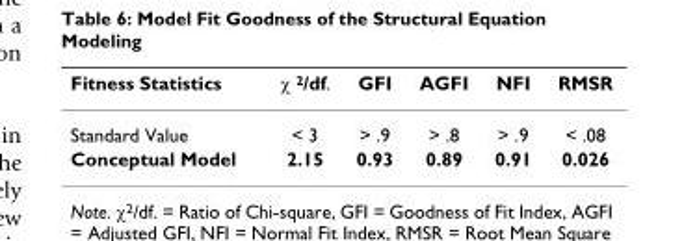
<table><thead><tr><td>Fitness Statistics</td><td>χ <sup>2</sup>/df.</td><td>GFI</td><td>AGFI</td><td>NFI</td><td>RMSR</td></tr></thead><tbody><tr><td>Standard Value</td><td>&lt; 3</td><td>&gt; .9</td><td>&gt; .8</td><td>&gt; .9</td><td>&lt; .08</td></tr><tr><td>Conceptual Model</td><td>2.15</td><td>0.93</td><td>0.89</td><td>0.91</td><td>0.026</td></tr></tbody></table>